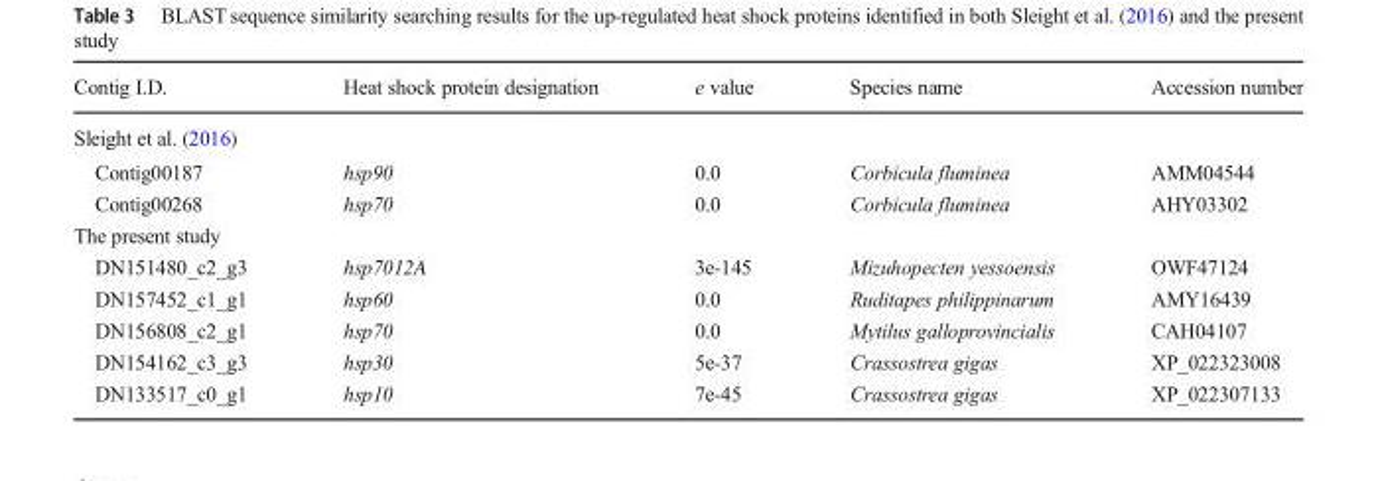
<table><thead><tr><td>Contig I.D.</td><td>Heat shock protein designation</td><td>e value</td><td>Species name</td><td>Accession number</td></tr></thead><tbody><tr><td colspan="5">Sleight et al. (2016)</td></tr><tr><td>Contig00187</td><td>hsp90</td><td>0.0</td><td>Corbicula fluminea</td><td>AMM04544</td></tr><tr><td>Contig00268</td><td>hsp70</td><td>0.0</td><td>Corbicula fluminea</td><td>AHY03302</td></tr><tr><td colspan="5">The present study</td></tr><tr><td>DN151480_c2_g3</td><td>hsp7012A</td><td>3e-145</td><td>Mizuhopecten yessoensis</td><td>OWF47124</td></tr><tr><td>DN157452_c1_g1</td><td>hsp60</td><td>0.0</td><td>Ruditapes philippinarum</td><td>AMY16439</td></tr><tr><td>DN156808_c2_g1</td><td>hsp70</td><td>0.0</td><td>Mytilus galloprovincialis</td><td>CAH04107</td></tr><tr><td>DN154162_c3_g3</td><td>hsp30</td><td>5e-37</td><td>Crassostrea gigas</td><td>XP_022323008</td></tr><tr><td>DN133517_c0_g1</td><td>hsp10</td><td>7e-45</td><td>Crassostrea gigas</td><td>XP_022307133</td></tr></tbody></table>